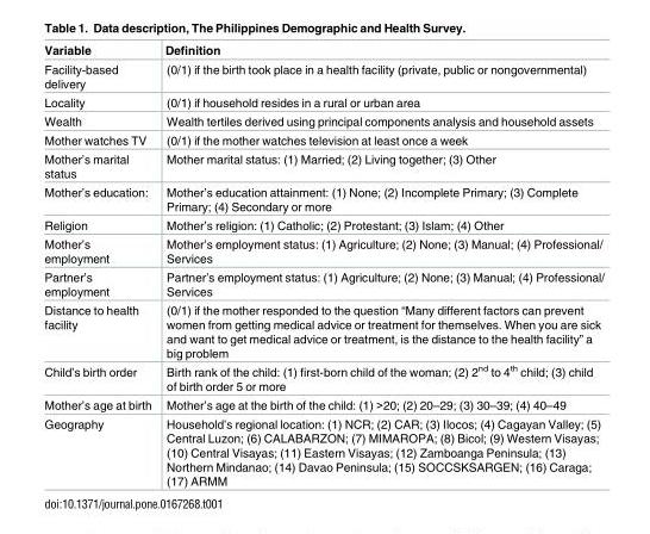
<table><thead><tr><td>Variable</td><td>Definition</td></tr></thead><tbody><tr><td>Facility-based delivery</td><td>(0/1) if the birth took place in a health facility (private, public or nongovernmental)</td></tr><tr><td>Locality</td><td>(0/1) if household resides in a rural or urban area</td></tr><tr><td>Wealth</td><td>Wealth tertiles derived using principal components analysis and household assets</td></tr><tr><td>Mother watches TV</td><td>(0/1) if the mother watches television at least once a week</td></tr><tr><td>Mother’s marital status</td><td>Mother marital status: (1) Married; (2) Living together; (3) Other</td></tr><tr><td>Mother’s education:</td><td>Mother’s education attainment: (1) None; (2) Incomplete Primary; (3) Complete Primary; (4) Secondary or more</td></tr><tr><td>Religion</td><td>Mother’s religion: (1) Catholic; (2) Protestant; (3) Islam; (4) Other</td></tr><tr><td>Mother’s employment</td><td>Mother’s employment status: (1) Agriculture; (2) None; (3) Manual; (4) Professional/ Services</td></tr><tr><td>Partner’s employment</td><td>Partner’s employment status: (1) Agriculture; (2) None; (3) Manual; (4) Professional/ Services</td></tr><tr><td>Distance to health facility</td><td>(0/1) if the mother responded to the question “Many different factors can prevent women from getting medical advice or treatment for themselves. When you are sick and want to get medical advice or treatment, is the distance to the health facility” a big problem</td></tr><tr><td>Child’s birth order</td><td>Birth rank of the child: (1) first-born child of the woman; (2) 2<sup>nd</sup> to 4<sup>th</sup> child; (3) child of birth order 5 or more</td></tr><tr><td>Mother’s age at birth</td><td>Mother’s age at the birth of the child: (1) &gt;20; (2) 20–29; (3) 30–39; (4) 40–49</td></tr><tr><td>Geography</td><td>Household’s regional location: (1) NCR; (2) CAR; (3) Ilocos; (4) Cagayan Valley; (5) Central Luzon; (6) CALABARZON; (7) MIMAROPA; (8) Bicol; (9) Western Visayas; (10) Central Visayas; (11) Eastern Visayas; (12) Zamboanga Peninsula; (13) Northern Mindanao; (14) Davao Peninsula; (15) SOCCSKSARGEN; (16) Caraga; (17) ARMM</td></tr></tbody></table>